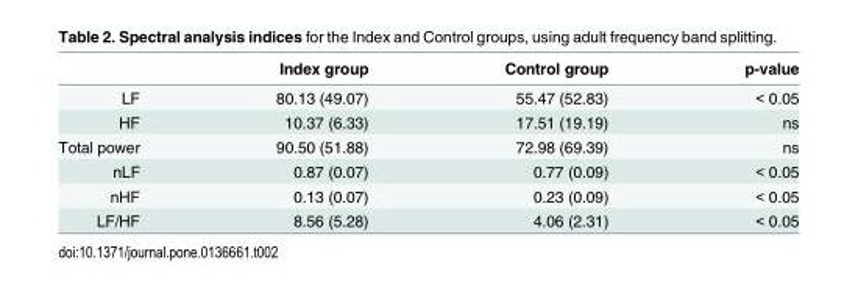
<table><thead><tr><td></td><td>Index group</td><td>Control group</td><td>p-value</td></tr></thead><tbody><tr><td>LF</td><td>80.13 (49.07)</td><td>55.47 (52.83)</td><td>&lt; 0.05</td></tr><tr><td>HF</td><td>10.37 (6.33)</td><td>17.51 (19.19)</td><td>ns</td></tr><tr><td>Total power</td><td>90.50 (51.88)</td><td>72.98 (69.39)</td><td>ns</td></tr><tr><td>nLF</td><td>0.87 (0.07)</td><td>0.77 (0.09)</td><td>&lt; 0.05</td></tr><tr><td>nHF</td><td>0.13 (0.07)</td><td>0.23 (0.09)</td><td>&lt; 0.05</td></tr><tr><td>LF/HF</td><td>8.56 (5.28)</td><td>4.06 (2.31)</td><td>&lt; 0.05</td></tr></tbody></table>